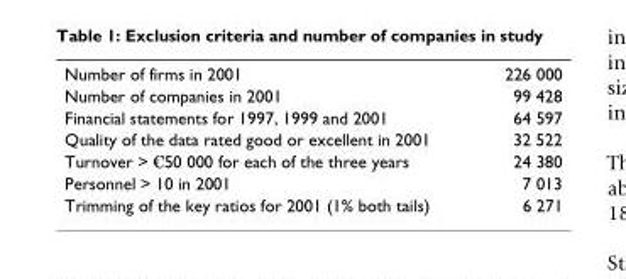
<table><tbody><tr><td>Number of firms in 2001</td><td>226 000</td></tr><tr><td>Number of companies in 2001</td><td>99 428</td></tr><tr><td>Financial statements for 1997, 1999 and 2001</td><td>64 597</td></tr><tr><td>Quality of the data rated good or excellent in 2001</td><td>32 522</td></tr><tr><td>Turnover &gt; €50 000 for each of the three years</td><td>24 380</td></tr><tr><td>Personnel &gt; 10 in 2001</td><td>7 013</td></tr><tr><td>Trimming of the key ratios for 2001 (1% both tails)</td><td>6 271</td></tr></tbody></table>